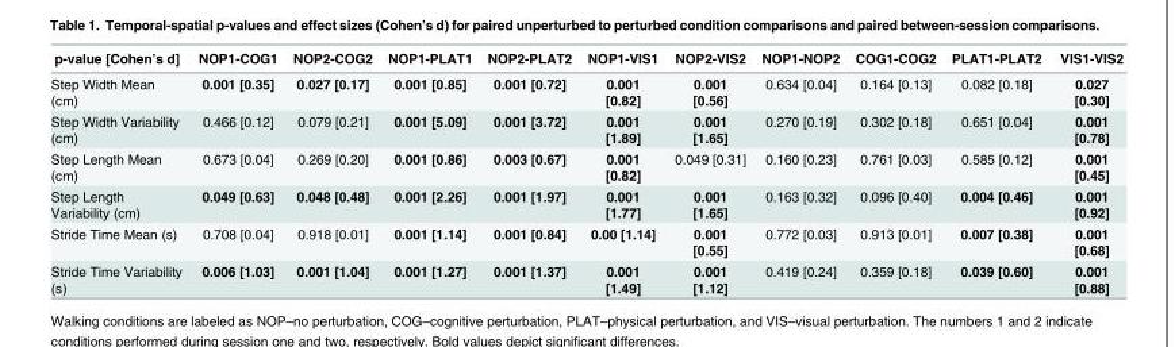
<table><thead><tr><td>p-value [Cohen’s d]</td><td>NOP1-COG1</td><td>NOP2-COG2</td><td>NOP1-PLAT1</td><td>NOP2-PLAT2</td><td>NOP1-VIS1</td><td>NOP2-VIS2</td><td>NOP1-NOP2</td><td>COG1-COG2</td><td>PLAT1-PLAT2</td><td>VIS1-VIS2</td></tr></thead><tbody><tr><td>Step Width Mean (cm)</td><td>0.001 [0.35]</td><td>0.027 [0.17]</td><td>0.001 [0.85]</td><td>0.001 [0.72]</td><td>0.001 [0.82]</td><td>0.001 [0.56]</td><td>0.634 [0.04]</td><td>0.164 [0.13]</td><td>0.082 [0.18]</td><td>0.027 [0.30]</td></tr><tr><td>Step Width Variability (cm)</td><td>0.466 [0.12]</td><td>0.079 [0.21]</td><td>0.001 [5.09]</td><td>0.001 [3.72]</td><td>0.001 [1.89]</td><td>0.001 [1.65]</td><td>0.270 [0.19]</td><td>0.302 [0.18]</td><td>0.651 [0.04]</td><td>0.001 [0.78]</td></tr><tr><td>Step Length Mean (cm)</td><td>0.673 [0.04]</td><td>0.269 [0.20]</td><td>0.001 [0.86]</td><td>0.003 [0.67]</td><td>0.001 [0.82]</td><td>0.049 [0.31]</td><td>0.160 [0.23]</td><td>0.761 [0.03]</td><td>0.585 [0.12]</td><td>0.001 [0.45]</td></tr><tr><td>Step Length Variability (cm)</td><td>0.049 [0.63]</td><td>0.048 [0.48]</td><td>0.001 [2.26]</td><td>0.001 [1.97]</td><td>0.001 [1.77]</td><td>0.001 [1.65]</td><td>0.163 [0.32]</td><td>0.096 [0.40]</td><td>0.004 [0.46]</td><td>0.001 [0.92]</td></tr><tr><td>Stride Time Mean (s)</td><td>0.708 [0.04]</td><td>0.918 [0.01]</td><td>0.001 [1.14]</td><td>0.001 [0.84]</td><td>0.00 [1.14]</td><td>0.001 [0.55]</td><td>0.772 [0.03]</td><td>0.913 [0.01]</td><td>0.007 [0.38]</td><td>0.001 [0.68]</td></tr><tr><td>Stride Time Variability (s)</td><td>0.006 [1.03]</td><td>0.001 [1.04]</td><td>0.001 [1.27]</td><td>0.001 [1.37]</td><td>0.001 [1.49]</td><td>0.001 [1.12]</td><td>0.419 [0.24]</td><td>0.359 [0.18]</td><td>0.039 [0.60]</td><td>0.001 [0.88]</td></tr></tbody></table>